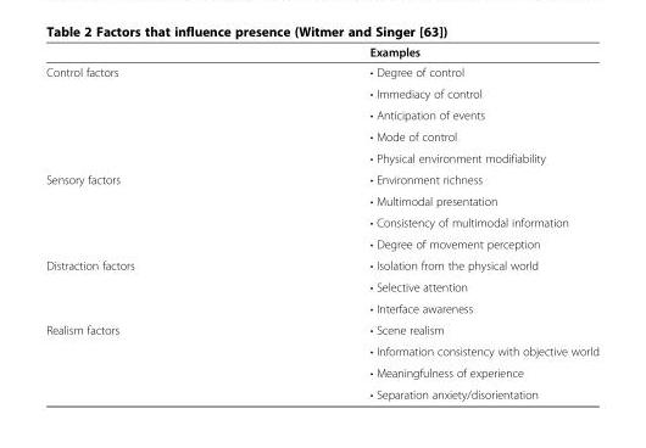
<table><thead><tr><td></td><td>Examples</td></tr></thead><tbody><tr><td rowspan="5">Control factors</td><td>• Degree of control</td></tr><tr><td>• Immediacy of control</td></tr><tr><td>• Anticipation of events</td></tr><tr><td>• Mode of control</td></tr><tr><td>• Physical environment modifiability</td></tr><tr><td rowspan="4">Sensory factors</td><td>• Environment richness</td></tr><tr><td>• Multimodal presentation</td></tr><tr><td>• Consistency of multimodal information</td></tr><tr><td>• Degree of movement perception</td></tr><tr><td rowspan="3">Distraction factors</td><td>• Isolation from the physical world</td></tr><tr><td>• Selective attention</td></tr><tr><td>• Interface awareness</td></tr><tr><td rowspan="4">Realism factors</td><td>• Scene realism</td></tr><tr><td>• Information consistency with objective world</td></tr><tr><td>• Meaningfulness of experience</td></tr><tr><td>• Separation anxiety/disorientation</td></tr></tbody></table>